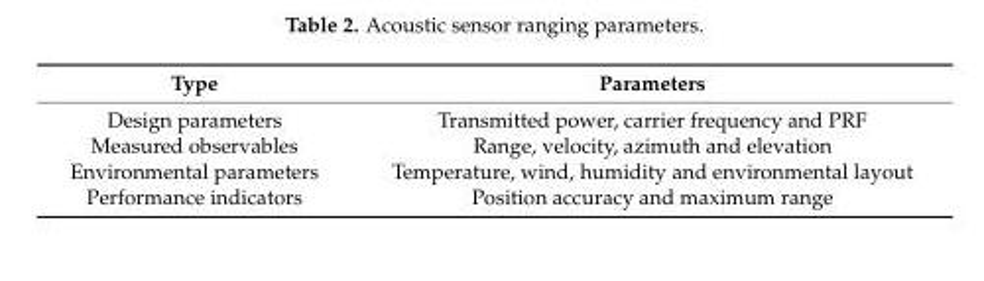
<table><thead><tr><td>Type</td><td>Parameters</td></tr></thead><tbody><tr><td>Design parameters</td><td>Transmitted power, carrier frequency and PRF</td></tr><tr><td>Measured observables</td><td>Range, velocity, azimuth and elevation</td></tr><tr><td>Environmental parameters</td><td>Temperature, wind, humidity and environmental layout</td></tr><tr><td>Performance indicators</td><td>Position accuracy and maximum range</td></tr></tbody></table>